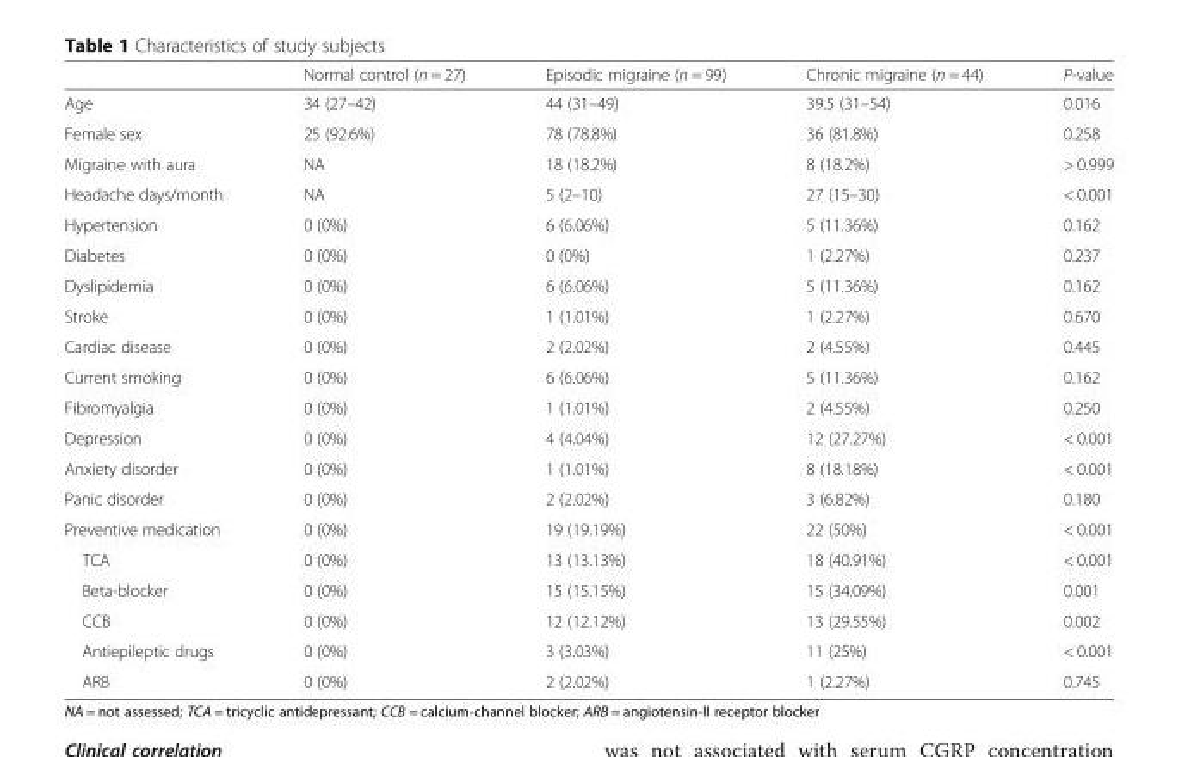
<table><thead><tr><td></td><td>Normal control (n = 27)</td><td>Episodic migraine (n = 99)</td><td>Chronic migraine (n = 44)</td><td>P-value</td></tr></thead><tbody><tr><td>Age</td><td>34 (27–42)</td><td>44 (31–49)</td><td>39.5 (31–54)</td><td>0.016</td></tr><tr><td>Female sex</td><td>25 (92.6%)</td><td>78 (78.8%)</td><td>36 (81.8%)</td><td>0.258</td></tr><tr><td>Migraine with aura</td><td>NA</td><td>18 (18.2%)</td><td>8 (18.2%)</td><td>&gt; 0.999</td></tr><tr><td>Headache days/month</td><td>NA</td><td>5 (2–10)</td><td>27 (15–30)</td><td>&lt; 0.001</td></tr><tr><td>Hypertension</td><td>0 (0%)</td><td>6 (6.06%)</td><td>5 (11.36%)</td><td>0.162</td></tr><tr><td>Diabetes</td><td>0 (0%)</td><td>0 (0%)</td><td>1 (2.27%)</td><td>0.237</td></tr><tr><td>Dyslipidemia</td><td>0 (0%)</td><td>6 (6.06%)</td><td>5 (11.36%)</td><td>0.162</td></tr><tr><td>Stroke</td><td>0 (0%)</td><td>1 (1.01%)</td><td>1 (2.27%)</td><td>0.670</td></tr><tr><td>Cardiac disease</td><td>0 (0%)</td><td>2 (2.02%)</td><td>2 (4.55%)</td><td>0.445</td></tr><tr><td>Current smoking</td><td>0 (0%)</td><td>6 (6.06%)</td><td>5 (11.36%)</td><td>0.162</td></tr><tr><td>Fibromyalgia</td><td>0 (0%)</td><td>1 (1.01%)</td><td>2 (4.55%)</td><td>0.250</td></tr><tr><td>Depression</td><td>0 (0%)</td><td>4 (4.04%)</td><td>12 (27.27%)</td><td>&lt; 0.001</td></tr><tr><td>Anxiety disorder</td><td>0 (0%)</td><td>1 (1.01%)</td><td>8 (18.18%)</td><td>&lt; 0.001</td></tr><tr><td>Panic disorder</td><td>0 (0%)</td><td>2 (2.02%)</td><td>3 (6.82%)</td><td>0.180</td></tr><tr><td>Preventive medication</td><td>0 (0%)</td><td>19 (19.19%)</td><td>22 (50%)</td><td>&lt; 0.001</td></tr><tr><td>TCA</td><td>0 (0%)</td><td>13 (13.13%)</td><td>18 (40.91%)</td><td>&lt; 0.001</td></tr><tr><td>Beta-blocker</td><td>0 (0%)</td><td>15 (15.15%)</td><td>15 (34.09%)</td><td>0.001</td></tr><tr><td>CCB</td><td>0 (0%)</td><td>12 (12.12%)</td><td>13 (29.55%)</td><td>0.002</td></tr><tr><td>Antiepileptic drugs</td><td>0 (0%)</td><td>3 (3.03%)</td><td>11 (25%)</td><td>&lt; 0.001</td></tr><tr><td>ARB</td><td>0 (0%)</td><td>2 (2.02%)</td><td>1 (2.27%)</td><td>0.745</td></tr></tbody></table>